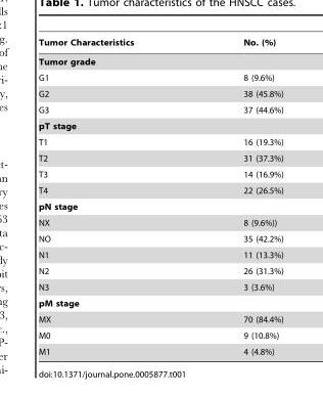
<table><thead><tr><td>Tumor Characteristics</td><td>No. (%)</td></tr></thead><tbody><tr><td colspan="2">Tumor grade</td></tr><tr><td>G1</td><td>8 (9.6%)</td></tr><tr><td>G2</td><td>38 (45.8%)</td></tr><tr><td>G3</td><td>37 (44.6%)</td></tr><tr><td colspan="2">pT stage</td></tr><tr><td>T1</td><td>16 (19.3%)</td></tr><tr><td>T2</td><td>31 (37.3%)</td></tr><tr><td>T3</td><td>14 (16.9%)</td></tr><tr><td>T4</td><td>22 (26.5%)</td></tr><tr><td colspan="2">pN stage</td></tr><tr><td>NX</td><td>8 (9.6%))</td></tr><tr><td>NO</td><td>35 (42.2%)</td></tr><tr><td>N1</td><td>11 (13.3%)</td></tr><tr><td>N2</td><td>26 (31.3%)</td></tr><tr><td>N3</td><td>3 (3.6%)</td></tr><tr><td colspan="2">pM stage</td></tr><tr><td>MX</td><td>70 (84.4%)</td></tr><tr><td>M0</td><td>9 (10.8%)</td></tr><tr><td>M1</td><td>4 (4.8%)</td></tr></tbody></table>